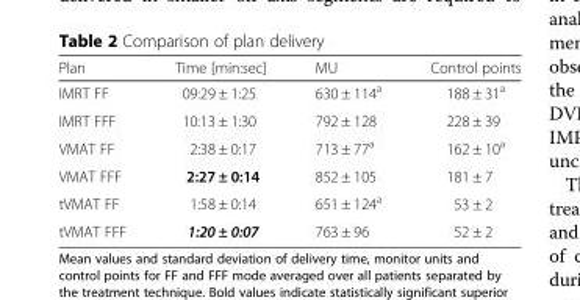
<table><thead><tr><td>Plan</td><td>Time [min:sec]</td><td>MU</td><td>Control points</td></tr></thead><tbody><tr><td>IMRT FF</td><td>09:29 ± 1:25</td><td>630 ± 114<sup>a</sup></td><td>188 ± 31<sup>a</sup></td></tr><tr><td>IMRT FFF</td><td>10:13 ± 1:30</td><td>792 ± 128</td><td>228 ± 39</td></tr><tr><td>VMAT FF</td><td>2:38 ± 0:17</td><td>713 ± 77<sup>a</sup></td><td>162 ± 10<sup>a</sup></td></tr><tr><td>VMAT FFF</td><td>2:27 ± 0:14</td><td>852 ± 105</td><td>181 ± 7</td></tr><tr><td>tVMAT FF</td><td>1:58 ± 0:14</td><td>651 ± 124<sup>a</sup></td><td>53 ± 2</td></tr><tr><td>tVMAT FFF</td><td>1:20 ± 0:07</td><td>763 ± 96</td><td>52 ± 2</td></tr></tbody></table>